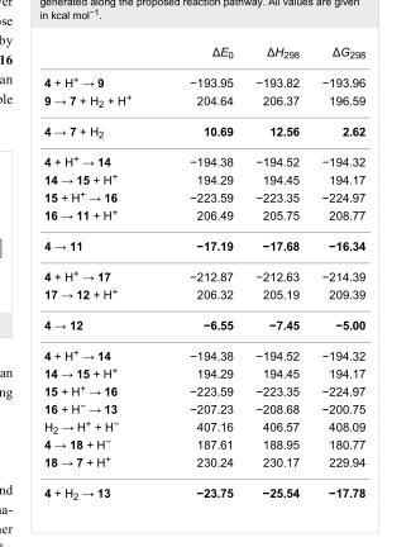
<table><thead><tr><td></td><td>ΔE<sub>0</sub></td><td>ΔH<sub>298</sub></td><td>ΔG<sub>298</sub></td></tr></thead><tbody><tr><td>4 + H<sup>+</sup> → 9</td><td>−193.95</td><td>−193.82</td><td>−193.96</td></tr><tr><td>9 → 7 + H<sub>2</sub> + H<sup>+</sup></td><td>204.64</td><td>206.37</td><td>196.59</td></tr><tr><td>4 → 7 + H<sub>2</sub></td><td>10.69</td><td>12.56</td><td>2.62</td></tr><tr><td>4 + H<sup>+</sup> → 14</td><td>−194.38</td><td>−194.52</td><td>−194.32</td></tr><tr><td>14 → 15 + H<sup>+</sup></td><td>194.29</td><td>194.45</td><td>194.17</td></tr><tr><td>15 + H<sup>+</sup> → 16</td><td>−223.59</td><td>−223.35</td><td>−224.97</td></tr><tr><td>16 → 11 + H<sup>+</sup></td><td>206.49</td><td>205.75</td><td>208.77</td></tr><tr><td>4 → 11</td><td>−17.19</td><td>−17.68</td><td>−16.34</td></tr><tr><td>4 + H<sup>+</sup> → 17</td><td>−212.87</td><td>−212.63</td><td>−214.39</td></tr><tr><td>17 → 12 + H<sup>+</sup></td><td>206.32</td><td>205.19</td><td>209.39</td></tr><tr><td>4 → 12</td><td>−6.55</td><td>−7.45</td><td>−5.00</td></tr><tr><td>4 + H<sup>+</sup> → 14</td><td>−194.38</td><td>−194.52</td><td>−194.32</td></tr><tr><td>14 → 15 + H<sup>+</sup></td><td>194.29</td><td>194.45</td><td>194.17</td></tr><tr><td>15 + H<sup>+</sup> → 16</td><td>−223.59</td><td>−223.35</td><td>−224.97</td></tr><tr><td>16 + H<sup>−</sup> → 13</td><td>−207.23</td><td>−208.68</td><td>−200.75</td></tr><tr><td>H<sub>2</sub> → H<sup>+</sup> + H<sup>−</sup></td><td>407.16</td><td>406.57</td><td>408.09</td></tr><tr><td>4 → 18 + H<sup>−</sup></td><td>187.61</td><td>188.95</td><td>180.77</td></tr><tr><td>18 → 7 + H<sup>+</sup></td><td>230.24</td><td>230.17</td><td>229.94</td></tr><tr><td>4 + H<sub>2</sub> → 13</td><td>−23.75</td><td>−25.54</td><td>−17.78</td></tr></tbody></table>